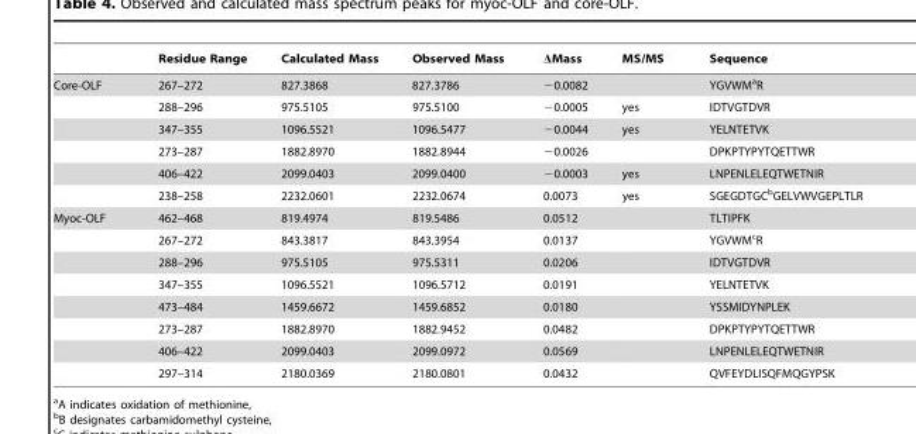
<table><thead><tr><td></td><td>Residue Range</td><td>Calculated Mass</td><td>Observed Mass</td><td>ΔMass</td><td>MS/MS</td><td>Sequence</td></tr></thead><tbody><tr><td rowspan="6">Core-OLF</td><td>267–272</td><td>827.3868</td><td>827.3786</td><td>−0.0082</td><td></td><td>YGVWM<sup>a</sup>R</td></tr><tr><td>288–296</td><td>975.5105</td><td>975.5100</td><td>−0.0005</td><td>yes</td><td>IDTVGTDVR</td></tr><tr><td>347–355</td><td>1096.5521</td><td>1096.5477</td><td>−0.0044</td><td>yes</td><td>YELNTETVK</td></tr><tr><td>273–287</td><td>1882.8970</td><td>1882.8944</td><td>−0.0026</td><td></td><td>DPKPTYPYTQETTWR</td></tr><tr><td>406–422</td><td>2099.0403</td><td>2099.0400</td><td>−0.0003</td><td>yes</td><td>LNPENLELEQTWETNIR</td></tr><tr><td>238–258</td><td>2232.0601</td><td>2232.0674</td><td>0.0073</td><td>yes</td><td>SGEGDTGC<sup>b</sup>GELVWVGEPLTLR</td></tr><tr><td rowspan="8">Myoc-OLF</td><td>462–468</td><td>819.4974</td><td>819.5486</td><td>0.0512</td><td></td><td>TLTIPFK</td></tr><tr><td>267–272</td><td>843.3817</td><td>843.3954</td><td>0.0137</td><td></td><td>YGVWM<sup>c</sup>R</td></tr><tr><td>288–296</td><td>975.5105</td><td>975.5311</td><td>0.0206</td><td></td><td>IDTVGTDVR</td></tr><tr><td>347–355</td><td>1096.5521</td><td>1096.5712</td><td>0.0191</td><td></td><td>YELNTETVK</td></tr><tr><td>473–484</td><td>1459.6672</td><td>1459.6852</td><td>0.0180</td><td></td><td>YSSMIDYNPLEK</td></tr><tr><td>273–287</td><td>1882.8970</td><td>1882.9452</td><td>0.0482</td><td></td><td>DPKPTYPYTQETTWR</td></tr><tr><td>406–422</td><td>2099.0403</td><td>2099.0972</td><td>0.0569</td><td></td><td>LNPENLELEQTWETNIR</td></tr><tr><td>297–314</td><td>2180.0369</td><td>2180.0801</td><td>0.0432</td><td></td><td>QVFEYDLISQFMQGYPSK</td></tr></tbody></table>